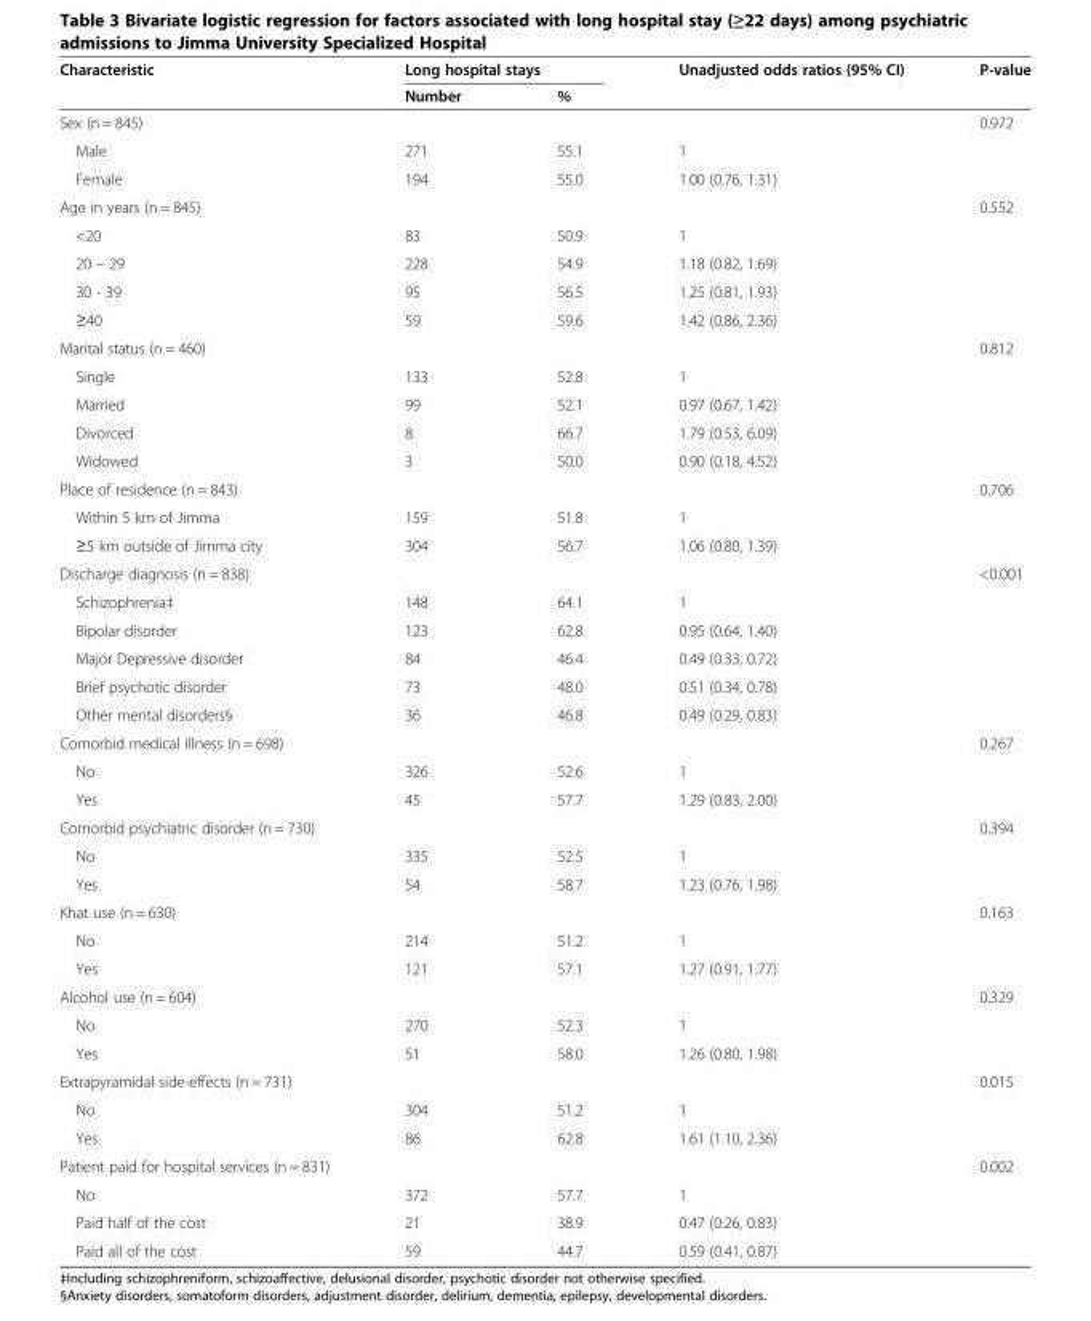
<table><thead><tr><td rowspan="2">Characteristic</td><td colspan="2">Long hospital stays</td><td rowspan="2">Unadjusted odds ratios (95% CI)</td><td rowspan="2">P-value</td></tr><tr><td>Number</td><td>%</td></tr></thead><tbody><tr><td>Sex (n = 845)</td><td></td><td></td><td></td><td>0.972</td></tr><tr><td>Male</td><td>271</td><td>55.1</td><td>1</td><td></td></tr><tr><td>Female</td><td>194</td><td>55.0</td><td>1.00 (0.76, 1.31)</td><td></td></tr><tr><td>Age in years (n = 845)</td><td></td><td></td><td></td><td>0.552</td></tr><tr><td>&lt;20</td><td>83</td><td>50.9</td><td>1</td><td></td></tr><tr><td>20 – 29</td><td>228</td><td>54.9</td><td>1.18 (0.82, 1.69)</td><td></td></tr><tr><td>30 - 39</td><td>95</td><td>56.5</td><td>1.25 (0.81, 1.93)</td><td></td></tr><tr><td>≥40</td><td>59</td><td>59.6</td><td>1.42 (0.86, 2.36)</td><td></td></tr><tr><td>Marital status (n = 460)</td><td></td><td></td><td></td><td>0.812</td></tr><tr><td>Single</td><td>133</td><td>52.8</td><td>1</td><td></td></tr><tr><td>Married</td><td>99</td><td>52.1</td><td>0.97 (0.67, 1.42)</td><td></td></tr><tr><td>Divorced</td><td>8</td><td>66.7</td><td>1.79 (0.53, 6.09)</td><td></td></tr><tr><td>Widowed</td><td>3</td><td>50.0</td><td>0.90 (0.18, 4.52)</td><td></td></tr><tr><td>Place of residence (n = 843)</td><td></td><td></td><td></td><td>0.706</td></tr><tr><td>Within 5 km of Jimma</td><td>159</td><td>51.8</td><td>1</td><td></td></tr><tr><td>≥5 km outside of Jimma city</td><td>304</td><td>56.7</td><td>1.06 (0.80, 1.39)</td><td></td></tr><tr><td>Discharge diagnosis (n = 838)</td><td></td><td></td><td></td><td>&lt;0.001</td></tr><tr><td>Schizophrenia‡</td><td>148</td><td>64.1</td><td>1</td><td></td></tr><tr><td>Bipolar disorder</td><td>123</td><td>62.8</td><td>0.95 (0.64, 1.40)</td><td></td></tr><tr><td>Major Depressive disorder</td><td>84</td><td>46.4</td><td>0.49 (0.33, 0.72)</td><td></td></tr><tr><td>Brief psychotic disorder</td><td>73</td><td>48.0</td><td>0.51 (0.34, 0.78)</td><td></td></tr><tr><td>Other mental disorders§</td><td>36</td><td>46.8</td><td>0.49 (0.29, 0.83)</td><td></td></tr><tr><td>Comorbid medical illness (n = 698)</td><td></td><td></td><td></td><td>0.267</td></tr><tr><td>No</td><td>326</td><td>52.6</td><td>1</td><td></td></tr><tr><td>Yes</td><td>45</td><td>57.7</td><td>1.29 (0.83, 2.00)</td><td></td></tr><tr><td>Comorbid psychiatric disorder (n = 730)</td><td></td><td></td><td></td><td>0.394</td></tr><tr><td>No</td><td>335</td><td>52.5</td><td>1</td><td></td></tr><tr><td>Yes</td><td>54</td><td>58.7</td><td>1.23 (0.76, 1.98)</td><td></td></tr><tr><td>Khat use (n = 630)</td><td></td><td></td><td></td><td>0.163</td></tr><tr><td>No</td><td>214</td><td>51.2</td><td>1</td><td></td></tr><tr><td>Yes</td><td>121</td><td>57.1</td><td>1.27 (0.91, 1.77)</td><td></td></tr><tr><td>Alcohol use (n = 604)</td><td></td><td></td><td></td><td>0.329</td></tr><tr><td>No</td><td>270</td><td>52.3</td><td>1</td><td></td></tr><tr><td>Yes</td><td>51</td><td>58.0</td><td>1.26 (0.80, 1.98)</td><td></td></tr><tr><td>Extrapyramidal side-effects (n = 731)</td><td></td><td></td><td></td><td>0.015</td></tr><tr><td>No</td><td>304</td><td>51.2</td><td>1</td><td></td></tr><tr><td>Yes</td><td>86</td><td>62.8</td><td>1.61 (1.10, 2.36)</td><td></td></tr><tr><td>Patient paid for hospital services (n = 831)</td><td></td><td></td><td></td><td>0.002</td></tr><tr><td>No</td><td>372</td><td>57.7</td><td>1</td><td></td></tr><tr><td>Paid half of the cost</td><td>21</td><td>38.9</td><td>0.47 (0.26, 0.83)</td><td></td></tr><tr><td>Paid all of the cost</td><td>59</td><td>44.7</td><td>0.59 (0.41, 0.87)</td><td></td></tr></tbody></table>